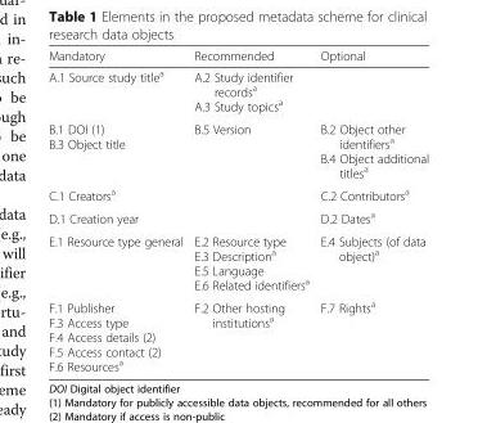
<table><thead><tr><td>Mandatory</td><td>Recommended</td><td>Optional</td></tr></thead><tbody><tr><td>A.1 Source study title<sup>a</sup></td><td>A.2 Study identifier records<sup>a</sup> A.3 Study topics<sup>a</sup></td><td></td></tr><tr><td>B.1 DOI (1) B.3 Object title</td><td>B.5 Version</td><td>B.2 Object other identifiers<sup>a</sup> B.4 Object additional titles<sup>a</sup></td></tr><tr><td>C.1 Creators<sup>a</sup></td><td></td><td>C.2 Contributors<sup>a</sup></td></tr><tr><td>D.1 Creation year</td><td></td><td>D.2 Dates<sup>a</sup></td></tr><tr><td>E.1 Resource type general</td><td>E.2 Resource type E.3 Description<sup>a</sup> E.5 Language E.6 Related identifiers<sup>a</sup></td><td>E.4 Subjects (of data object)<sup>a</sup></td></tr><tr><td>F.1 Publisher F.3 Access type F.4 Access details (2) F.5 Access contact (2) F.6 Resources<sup>a</sup></td><td>F.2 Other hosting institutions<sup>a</sup></td><td>F.7 Rights<sup>a</sup></td></tr></tbody></table>